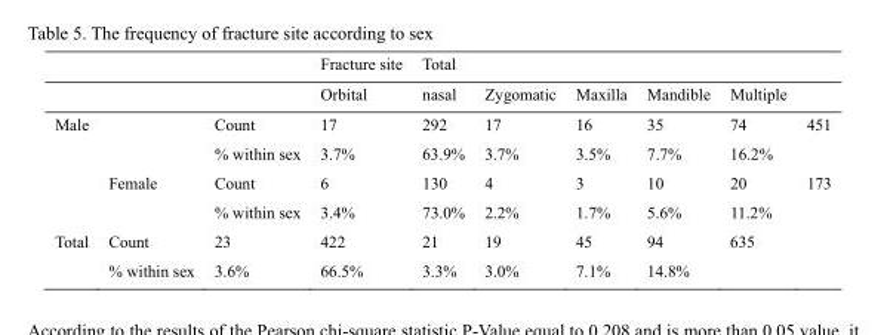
<table><thead><tr><td rowspan="2"></td><td rowspan="2"></td><td rowspan="2"></td><td rowspan="2">Fracture site Orbital</td><td rowspan="2">Total nasal</td><td rowspan="2">Zygomatic</td><td rowspan="2">Maxilla</td><td rowspan="2">Mandible</td><td rowspan="2">Multiple</td><td rowspan="2"></td></tr><tr></tr></thead><tbody><tr><td rowspan="4">Male</td><td></td><td>Count</td><td>17</td><td>292</td><td>17</td><td>16</td><td>35</td><td>74</td><td>451</td></tr><tr><td></td><td>% within sex</td><td>3.7%</td><td>63.9%</td><td>3.7%</td><td>3.5%</td><td>7.7%</td><td>16.2%</td><td></td></tr><tr><td>Female</td><td>Count</td><td>6</td><td>130</td><td>4</td><td>3</td><td>10</td><td>20</td><td>173</td></tr><tr><td></td><td>% within sex</td><td>3.4%</td><td>73.0%</td><td>2.2%</td><td>1.7%</td><td>5.6%</td><td>11.2%</td><td></td></tr><tr><td rowspan="2">Total</td><td>Count</td><td>23</td><td>422</td><td>21</td><td>19</td><td>45</td><td>94</td><td>635</td><td></td></tr><tr><td>% within sex</td><td>3.6%</td><td>66.5%</td><td>3.3%</td><td>3.0%</td><td>7.1%</td><td>14.8%</td><td></td><td></td></tr></tbody></table>